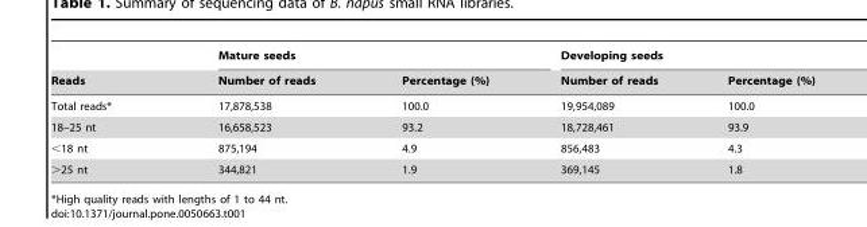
<table><thead><tr><td rowspan="2">Reads</td><td colspan="2">Mature seeds</td><td colspan="2">Developing seeds</td></tr><tr><td>Number of reads</td><td>Percentage (%)</td><td>Number of reads</td><td>Percentage (%)</td></tr></thead><tbody><tr><td>Total reads*</td><td>17,878,538</td><td>100.0</td><td>19,954,089</td><td>100.0</td></tr><tr><td>18–25 nt</td><td>16,658,523</td><td>93.2</td><td>18,728,461</td><td>93.9</td></tr><tr><td>&lt;18 nt</td><td>875,194</td><td>4.9</td><td>856,483</td><td>4.3</td></tr><tr><td>&gt;25 nt</td><td>344,821</td><td>1.9</td><td>369,145</td><td>1.8</td></tr></tbody></table>